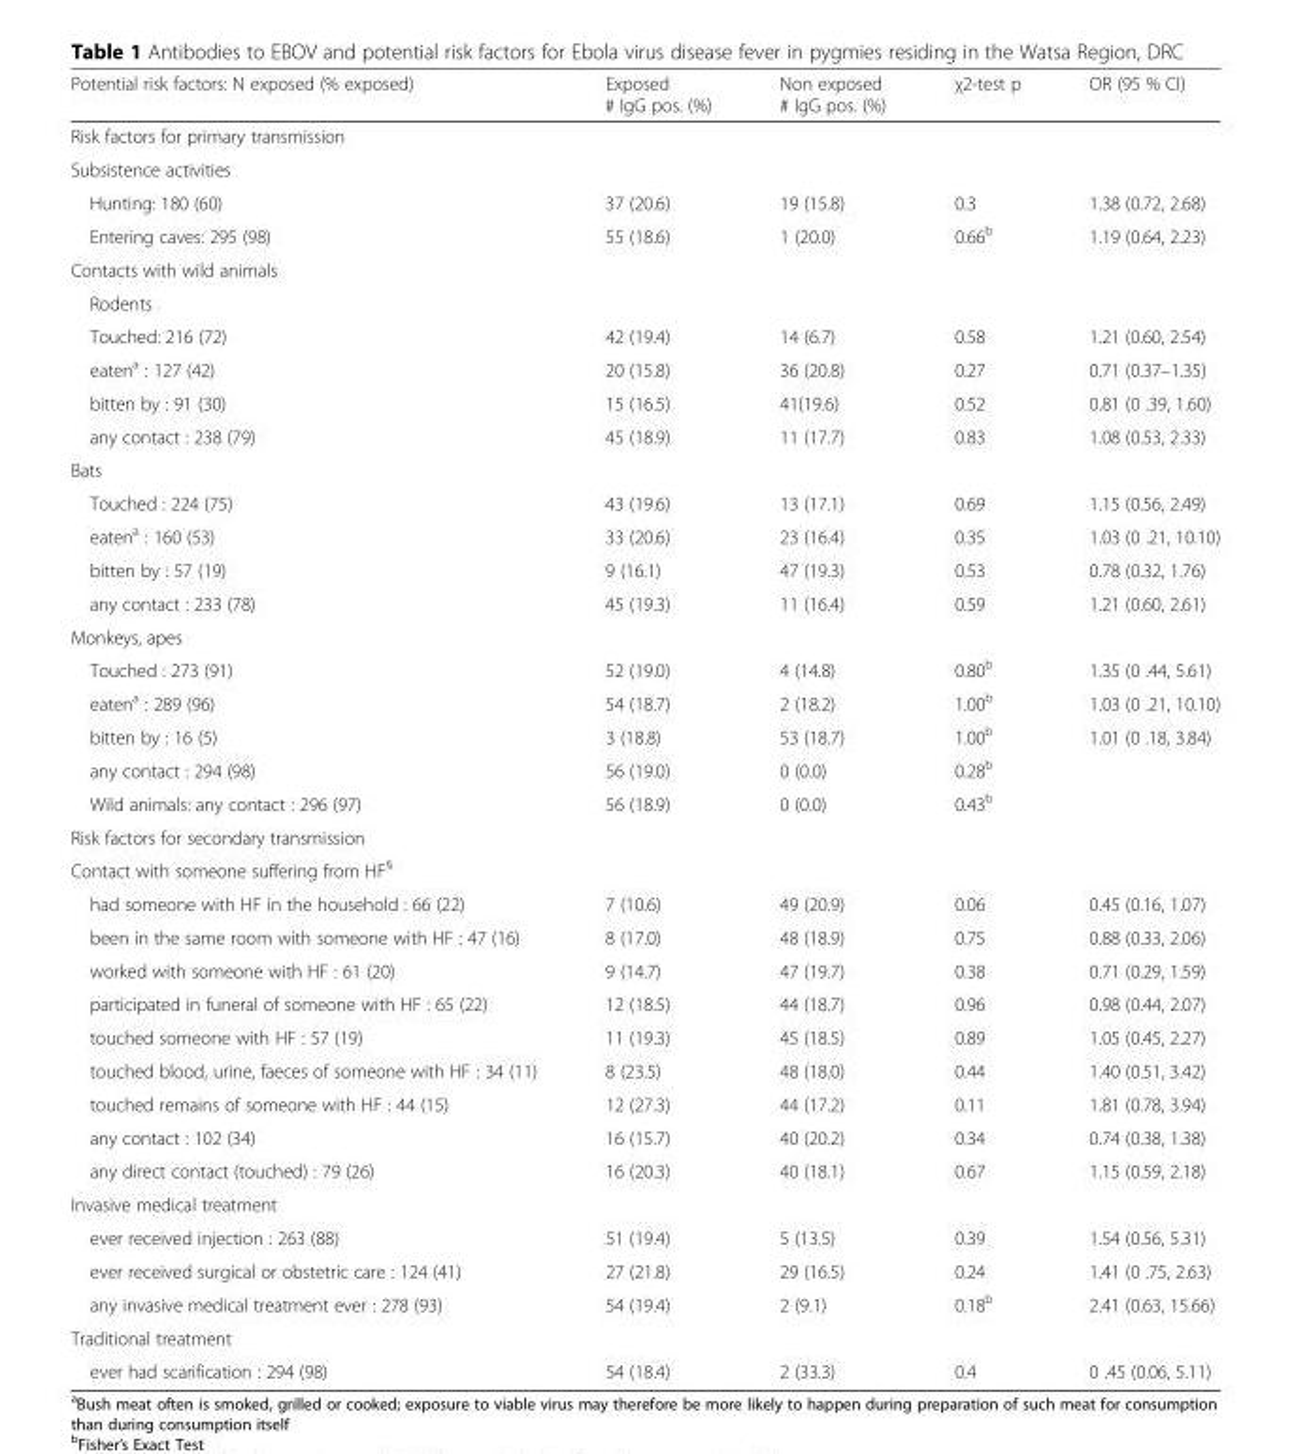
<table><thead><tr><td>Potential risk factors: N exposed (% exposed)</td><td>Exposed # IgG pos. (%)</td><td>Non exposed # IgG pos. (%)</td><td>χ2-test p</td><td>OR (95 % CI)</td></tr></thead><tbody><tr><td colspan="5">Risk factors for primary transmission</td></tr><tr><td colspan="5">Subsistence activities</td></tr><tr><td>Hunting: 180 (60)</td><td>37 (20.6)</td><td>19 (15.8)</td><td>0.3</td><td>1.38 (0.72, 2.68)</td></tr><tr><td>Entering caves: 295 (98)</td><td>55 (18.6)</td><td>1 (20.0)</td><td>0.66<sup>b</sup></td><td>1.19 (0.64, 2.23)</td></tr><tr><td colspan="5">Contacts with wild animals</td></tr><tr><td colspan="5">Rodents</td></tr><tr><td>Touched: 216 (72)</td><td>42 (19.4)</td><td>14 (6.7)</td><td>0.58</td><td>1.21 (0.60, 2.54)</td></tr><tr><td>eaten<sup>a</sup> : 127 (42)</td><td>20 (15.8)</td><td>36 (20.8)</td><td>0.27</td><td>0.71 (0.37–1.35)</td></tr><tr><td>bitten by : 91 (30)</td><td>15 (16.5)</td><td>41(19.6)</td><td>0.52</td><td>0.81 (0 .39, 1.60)</td></tr><tr><td>any contact : 238 (79)</td><td>45 (18.9)</td><td>11 (17.7)</td><td>0.83</td><td>1.08 (0.53, 2.33)</td></tr><tr><td colspan="5">Bats</td></tr><tr><td>Touched : 224 (75)</td><td>43 (19.6)</td><td>13 (17.1)</td><td>0.69</td><td>1.15 (0.56, 2.49)</td></tr><tr><td>eaten<sup>a</sup> : 160 (53)</td><td>33 (20.6)</td><td>23 (16.4)</td><td>0.35</td><td>1.03 (0 .21, 10.10)</td></tr><tr><td>bitten by : 57 (19)</td><td>9 (16.1)</td><td>47 (19.3)</td><td>0.53</td><td>0.78 (0.32, 1.76)</td></tr><tr><td>any contact : 233 (78)</td><td>45 (19.3)</td><td>11 (16.4)</td><td>0.59</td><td>1.21 (0.60, 2.61)</td></tr><tr><td colspan="5">Monkeys, apes</td></tr><tr><td>Touched : 273 (91)</td><td>52 (19.0)</td><td>4 (14.8)</td><td>0.80<sup>b</sup></td><td>1.35 (0 .44, 5.61)</td></tr><tr><td>eaten<sup>a</sup> : 289 (96)</td><td>54 (18.7)</td><td>2 (18.2)</td><td>1.00<sup>b</sup></td><td>1.03 (0 .21, 10.10)</td></tr><tr><td>bitten by : 16 (5)</td><td>3 (18.8)</td><td>53 (18.7)</td><td>1.00<sup>b</sup></td><td>1.01 (0 .18, 3.84)</td></tr><tr><td>any contact : 294 (98)</td><td>56 (19.0)</td><td>0 (0.0)</td><td>0.28<sup>b</sup></td><td></td></tr><tr><td>Wild animals: any contact : 296 (97)</td><td>56 (18.9)</td><td>0 (0.0)</td><td>0.43<sup>b</sup></td><td></td></tr><tr><td colspan="5">Risk factors for secondary transmission</td></tr><tr><td colspan="5">Contact with someone suffering from HF<sup>§</sup></td></tr><tr><td>had someone with HF in the household : 66 (22)</td><td>7 (10.6)</td><td>49 (20.9)</td><td>0.06</td><td>0.45 (0.16, 1.07)</td></tr><tr><td>been in the same room with someone with HF : 47 (16)</td><td>8 (17.0)</td><td>48 (18.9)</td><td>0.75</td><td>0.88 (0.33, 2.06)</td></tr><tr><td>worked with someone with HF : 61 (20)</td><td>9 (14.7)</td><td>47 (19.7)</td><td>0.38</td><td>0.71 (0.29, 1.59)</td></tr><tr><td>participated in funeral of someone with HF : 65 (22)</td><td>12 (18.5)</td><td>44 (18.7)</td><td>0.96</td><td>0.98 (0.44, 2.07)</td></tr><tr><td>touched someone with HF : 57 (19)</td><td>11 (19.3)</td><td>45 (18.5)</td><td>0.89</td><td>1.05 (0.45, 2.27)</td></tr><tr><td>touched blood, urine, faeces of someone with HF : 34 (11)</td><td>8 (23.5)</td><td>48 (18.0)</td><td>0.44</td><td>1.40 (0.51, 3.42)</td></tr><tr><td>touched remains of someone with HF : 44 (15)</td><td>12 (27.3)</td><td>44 (17.2)</td><td>0.11</td><td>1.81 (0.78, 3.94)</td></tr><tr><td>any contact : 102 (34)</td><td>16 (15.7)</td><td>40 (20.2)</td><td>0.34</td><td>0.74 (0.38, 1.38)</td></tr><tr><td>any direct contact (touched) : 79 (26)</td><td>16 (20.3)</td><td>40 (18.1)</td><td>0.67</td><td>1.15 (0.59, 2.18)</td></tr><tr><td colspan="5">Invasive medical treatment</td></tr><tr><td>ever received injection : 263 (88)</td><td>51 (19.4)</td><td>5 (13.5)</td><td>0.39</td><td>1.54 (0.56, 5.31)</td></tr><tr><td>ever received surgical or obstetric care : 124 (41)</td><td>27 (21.8)</td><td>29 (16.5)</td><td>0.24</td><td>1.41 (0 .75, 2.63)</td></tr><tr><td>any invasive medical treatment ever : 278 (93)</td><td>54 (19.4)</td><td>2 (9.1)</td><td>0.18<sup>b</sup></td><td>2.41 (0.63, 15.66)</td></tr><tr><td colspan="5">Traditional treatment</td></tr><tr><td>ever had scarification : 294 (98)</td><td>54 (18.4)</td><td>2 (33.3)</td><td>0.4</td><td>0 .45 (0.06, 5.11)</td></tr></tbody></table>